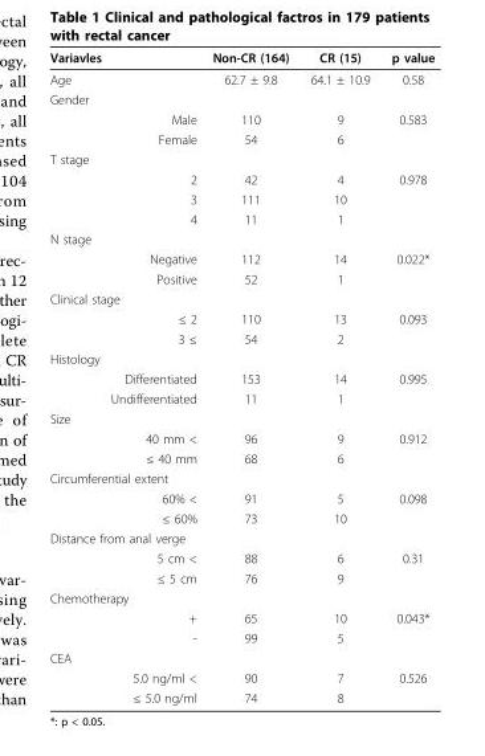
<table><thead><tr><td>Variavles</td><td>Non-CR (164)</td><td>CR (15)</td><td>p value</td></tr></thead><tbody><tr><td>Age</td><td>62.7 ± 9.8</td><td>64.1 ± 10.9</td><td>0.58</td></tr><tr><td colspan="4">Gender</td></tr><tr><td>Male</td><td>110</td><td>9</td><td>0.583</td></tr><tr><td>Female</td><td>54</td><td>6</td><td></td></tr><tr><td colspan="4">T stage</td></tr><tr><td>2</td><td>42</td><td>4</td><td>0.978</td></tr><tr><td>3</td><td>111</td><td>10</td><td></td></tr><tr><td>4</td><td>11</td><td>1</td><td></td></tr><tr><td colspan="4">N stage</td></tr><tr><td>Negative</td><td>112</td><td>14</td><td>0.022*</td></tr><tr><td>Positive</td><td>52</td><td>1</td><td></td></tr><tr><td colspan="4">Clinical stage</td></tr><tr><td>≤ 2</td><td>110</td><td>13</td><td>0.093</td></tr><tr><td>3 ≤</td><td>54</td><td>2</td><td></td></tr><tr><td colspan="4">Histology</td></tr><tr><td>Differentiated</td><td>153</td><td>14</td><td>0.995</td></tr><tr><td>Undifferentiated</td><td>11</td><td>1</td><td></td></tr><tr><td colspan="4">Size</td></tr><tr><td>40 mm &lt;</td><td>96</td><td>9</td><td>0.912</td></tr><tr><td>≤ 40 mm</td><td>68</td><td>6</td><td></td></tr><tr><td colspan="4">Circumferential extent</td></tr><tr><td>60% &lt;</td><td>91</td><td>5</td><td>0.098</td></tr><tr><td>≤ 60%</td><td>73</td><td>10</td><td></td></tr><tr><td colspan="4">Distance from anal verge</td></tr><tr><td>5 cm &lt;</td><td>88</td><td>6</td><td>0.31</td></tr><tr><td>≤ 5 cm</td><td>76</td><td>9</td><td></td></tr><tr><td colspan="4">Chemotherapy</td></tr><tr><td>+</td><td>65</td><td>10</td><td>0.043*</td></tr><tr><td>-</td><td>99</td><td>5</td><td></td></tr><tr><td colspan="4">CEA</td></tr><tr><td>5.0 ng/ml &lt;</td><td>90</td><td>7</td><td>0.526</td></tr><tr><td>≤ 5.0 ng/ml</td><td>74</td><td>8</td><td></td></tr></tbody></table>